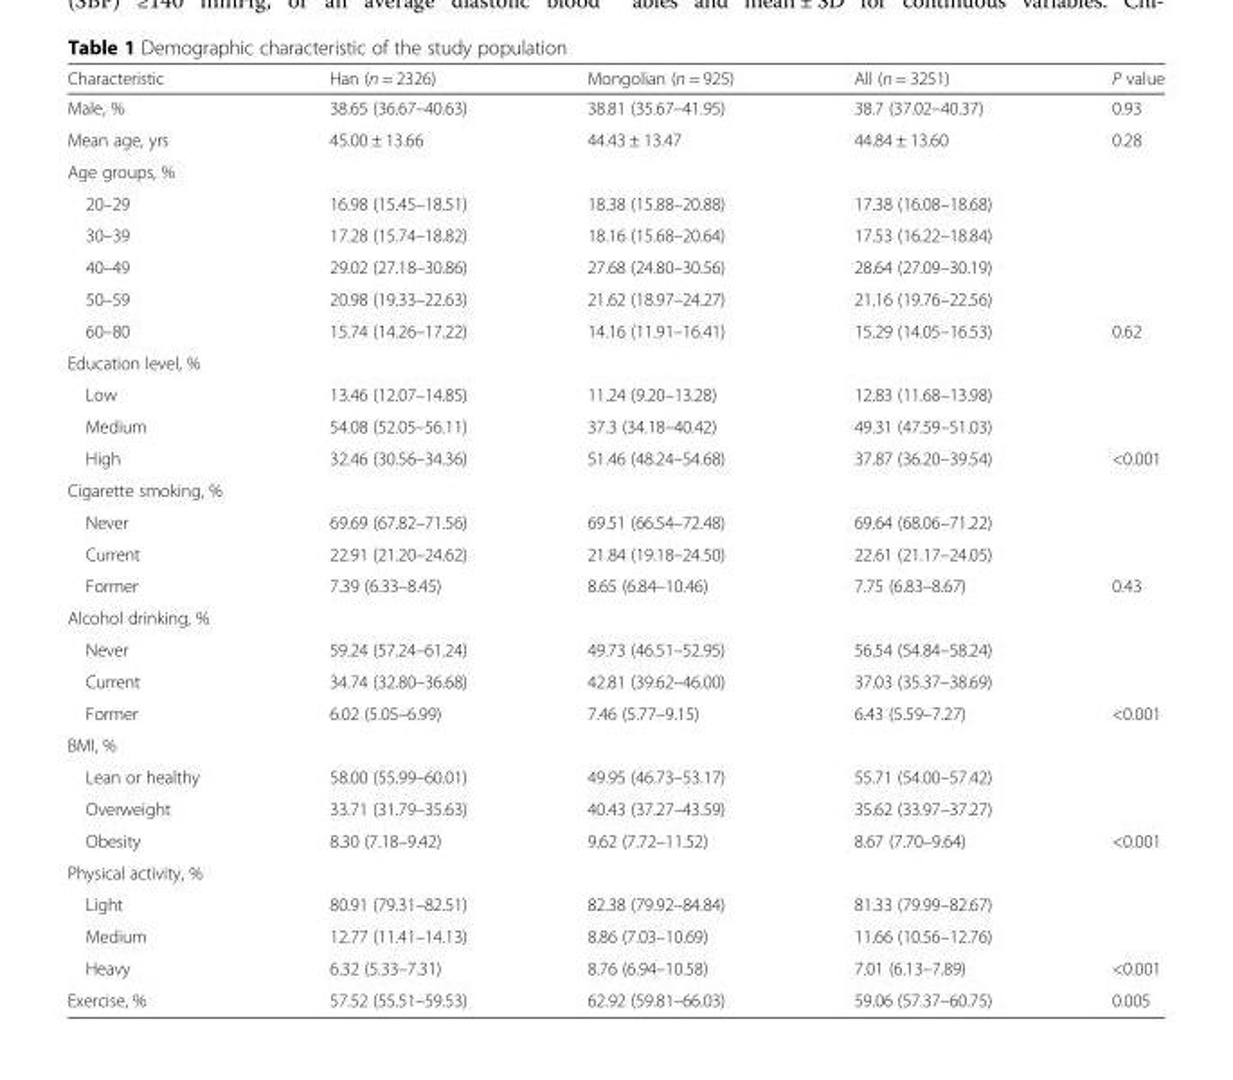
<table><thead><tr><td>Characteristic</td><td>Han (n = 2326)</td><td>Mongolian (n = 925)</td><td>All (n = 3251)</td><td>P value</td></tr></thead><tbody><tr><td>Male, %</td><td>38.65 (36.67–40.63)</td><td>38.81 (35.67–41.95)</td><td>38.7 (37.02–40.37)</td><td>0.93</td></tr><tr><td>Mean age, yrs</td><td>45.00 ± 13.66</td><td>44.43 ± 13.47</td><td>44.84 ± 13.60</td><td>0.28</td></tr><tr><td colspan="5">Age groups, %</td></tr><tr><td>20–29</td><td>16.98 (15.45–18.51)</td><td>18.38 (15.88–20.88)</td><td>17.38 (16.08–18.68)</td><td></td></tr><tr><td>30–39</td><td>17.28 (15.74–18.82)</td><td>18.16 (15.68–20.64)</td><td>17.53 (16.22–18.84)</td><td></td></tr><tr><td>40–49</td><td>29.02 (27.18–30.86)</td><td>27.68 (24.80–30.56)</td><td>28.64 (27.09–30.19)</td><td></td></tr><tr><td>50–59</td><td>20.98 (19.33–22.63)</td><td>21.62 (18.97–24.27)</td><td>21.16 (19.76–22.56)</td><td></td></tr><tr><td>60–80</td><td>15.74 (14.26–17.22)</td><td>14.16 (11.91–16.41)</td><td>15.29 (14.05–16.53)</td><td>0.62</td></tr><tr><td colspan="5">Education level, %</td></tr><tr><td>Low</td><td>13.46 (12.07–14.85)</td><td>11.24 (9.20–13.28)</td><td>12.83 (11.68–13.98)</td><td></td></tr><tr><td>Medium</td><td>54.08 (52.05–56.11)</td><td>37.3 (34.18–40.42)</td><td>49.31 (47.59–51.03)</td><td></td></tr><tr><td>High</td><td>32.46 (30.56–34.36)</td><td>51.46 (48.24–54.68)</td><td>37.87 (36.20–39.54)</td><td>&lt;0.001</td></tr><tr><td colspan="5">Cigarette smoking, %</td></tr><tr><td>Never</td><td>69.69 (67.82–71.56)</td><td>69.51 (66.54–72.48)</td><td>69.64 (68.06–71.22)</td><td></td></tr><tr><td>Current</td><td>22.91 (21.20–24.62)</td><td>21.84 (19.18–24.50)</td><td>22.61 (21.17–24.05)</td><td></td></tr><tr><td>Former</td><td>7.39 (6.33–8.45)</td><td>8.65 (6.84–10.46)</td><td>7.75 (6.83–8.67)</td><td>0.43</td></tr><tr><td colspan="5">Alcohol drinking, %</td></tr><tr><td>Never</td><td>59.24 (57.24–61.24)</td><td>49.73 (46.51–52.95)</td><td>56.54 (54.84–58.24)</td><td></td></tr><tr><td>Current</td><td>34.74 (32.80–36.68)</td><td>42.81 (39.62–46.00)</td><td>37.03 (35.37–38.69)</td><td></td></tr><tr><td>Former</td><td>6.02 (5.05–6.99)</td><td>7.46 (5.77–9.15)</td><td>6.43 (5.59–7.27)</td><td>&lt;0.001</td></tr><tr><td colspan="5">BMI, %</td></tr><tr><td>Lean or healthy</td><td>58.00 (55.99–60.01)</td><td>49.95 (46.73–53.17)</td><td>55.71 (54.00–57.42)</td><td></td></tr><tr><td>Overweight</td><td>33.71 (31.79–35.63)</td><td>40.43 (37.27–43.59)</td><td>35.62 (33.97–37.27)</td><td></td></tr><tr><td>Obesity</td><td>8.30 (7.18–9.42)</td><td>9.62 (7.72–11.52)</td><td>8.67 (7.70–9.64)</td><td>&lt;0.001</td></tr><tr><td colspan="5">Physical activity, %</td></tr><tr><td>Light</td><td>80.91 (79.31–82.51)</td><td>82.38 (79.92–84.84)</td><td>81.33 (79.99–82.67)</td><td></td></tr><tr><td>Medium</td><td>12.77 (11.41–14.13)</td><td>8.86 (7.03–10.69)</td><td>11.66 (10.56–12.76)</td><td></td></tr><tr><td>Heavy</td><td>6.32 (5.33–7.31)</td><td>8.76 (6.94–10.58)</td><td>7.01 (6.13–7.89)</td><td>&lt;0.001</td></tr><tr><td>Exercise, %</td><td>57.52 (55.51–59.53)</td><td>62.92 (59.81–66.03)</td><td>59.06 (57.37–60.75)</td><td>0.005</td></tr></tbody></table>